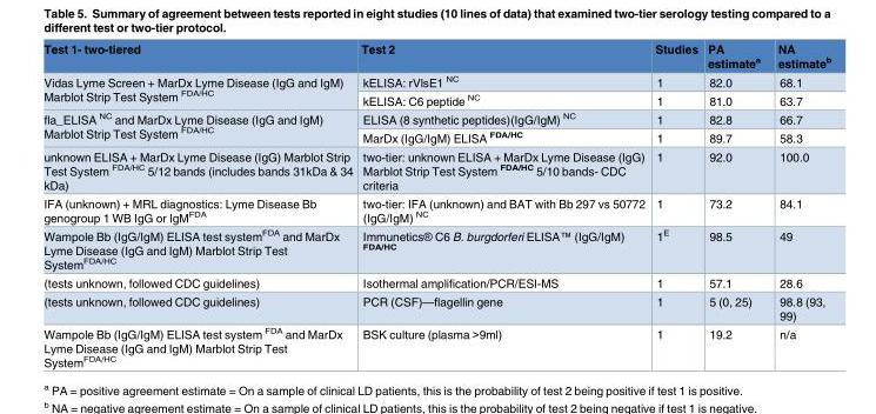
<table><thead><tr><td>Test 1- two-tiered</td><td>Test 2</td><td>Studies</td><td>PA estimate<sup>a</sup></td><td>NA estimate<sup>b</sup></td></tr></thead><tbody><tr><td rowspan="2">Vidas Lyme Screen + MarDx Lyme Disease (IgG and IgM) Marblot Strip Test System <sup>FDA/HC</sup></td><td>kELISA: rVlsE1 <sup>NC</sup></td><td>1</td><td>82.0</td><td>68.1</td></tr><tr><td>kELISA: C6 peptide <sup>NC</sup></td><td>1</td><td>81.0</td><td>63.7</td></tr><tr><td rowspan="2">fla_ELISA <sup>NC</sup> and MarDx Lyme Disease (IgG and IgM) Marblot Strip Test System <sup>FDA/HC</sup></td><td>ELISA (8 synthetic peptides)(IgG/IgM) <sup>NC</sup></td><td>1</td><td>82.8</td><td>66.7</td></tr><tr><td>MarDx (IgG/IgM) ELISA <sup>FDA/HC</sup></td><td>1</td><td>89.7</td><td>58.3</td></tr><tr><td>unknown ELISA + MarDx Lyme Disease (IgG) Marblot Strip Test System <sup>FDA/HC</sup> 5/12 bands (includes bands 31kDa &amp; 34 kDa)</td><td>two-tier: unknown ELISA + MarDx Lyme Disease (IgG) Marblot Strip Test System <sup>FDA/HC</sup> 5/10 bands- CDC criteria</td><td>1</td><td>92.0</td><td>100.0</td></tr><tr><td>IFA (unknown) + MRL diagnostics: Lyme Disease Bb genogroup 1 WB IgG or IgM<sup>FDA</sup></td><td>two-tier: IFA (unknown) and BAT with Bb 297 vs 50772 (IgG/IgM) <sup>NC</sup></td><td>1</td><td>73.2</td><td>84.1</td></tr><tr><td>Wampole Bb (IgG/IgM) ELISA test system<sup>FDA</sup> and MarDx Lyme Disease (IgG and IgM) Marblot Strip Test System<sup>FDA/HC</sup></td><td>Immunetics® C6 B. burgdorferi ELISA™ (IgG/IgM) <sup>FDA/HC</sup></td><td>1<sup>E</sup></td><td>98.5</td><td>49</td></tr><tr><td>(tests unknown, followed CDC guidelines)</td><td>Isothermal amplification/PCR/ESI-MS</td><td>1</td><td>57.1</td><td>28.6</td></tr><tr><td>(tests unknown, followed CDC guidelines)</td><td>PCR (CSF)—flagellin gene</td><td>1</td><td>5 (0, 25)</td><td>98.8 (93, 99)</td></tr><tr><td>Wampole Bb (IgG/IgM) ELISA test system <sup>FDA</sup> and MarDx Lyme Disease (IgG and IgM) Marblot Strip Test System<sup>FDA/HC</sup></td><td>BSK culture (plasma &gt;9ml)</td><td>1</td><td>19.2</td><td>n/a</td></tr></tbody></table>